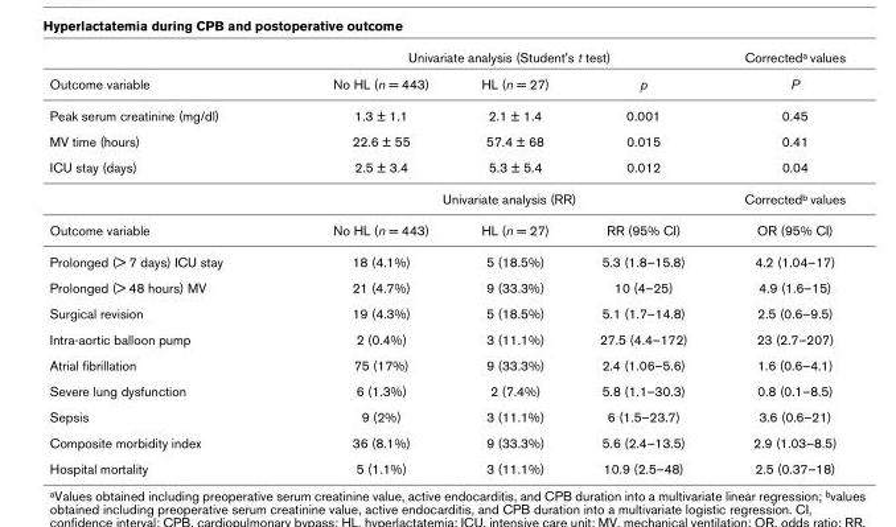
<table><thead><tr><td rowspan="2">Outcome variable</td><td colspan="3">Univariate analysis (Student&#x27;s t test)</td><td rowspan="2">Correcteda values P</td></tr><tr><td>No HL (n = 443)</td><td>HL (n = 27)</td><td>p</td></tr></thead><tbody><tr><td>Peak serum creatinine (mg/dl)</td><td>1.3 ± 1.1</td><td>2.1 ± 1.4</td><td>0.001</td><td>0.45</td></tr><tr><td>MV time (hours)</td><td>22.6 ± 55</td><td>57.4 ± 68</td><td>0.015</td><td>0.41</td></tr><tr><td rowspan="2">ICU stay (days)</td><td>2.5 ± 3.4</td><td>5.3 ± 5.4</td><td>0.012</td><td>0.04</td></tr><tr><td colspan="3">Univariate analysis (RR)</td><td>Correctedb values</td></tr><tr><td>Outcome variable</td><td>No HL (n = 443)</td><td>HL (n = 27)</td><td>RR (95% CI)</td><td>OR (95% CI)</td></tr><tr><td>Prolonged (&gt; 7 days) ICU stay</td><td>18 (4.1%)</td><td>5 (18.5%)</td><td>5.3 (1.8–15.8)</td><td>4.2 (1.04–17)</td></tr><tr><td>Prolonged (&gt; 48 hours) MV</td><td>21 (4.7%)</td><td>9 (33.3%)</td><td>10 (4–25)</td><td>4.9 (1.6–15)</td></tr><tr><td>Surgical revision</td><td>19 (4.3%)</td><td>5 (18.5%)</td><td>5.1 (1.7–14.8)</td><td>2.5 (0.6–9.5)</td></tr><tr><td>Intra-aortic balloon pump</td><td>2 (0.4%)</td><td>3 (11.1%)</td><td>27.5 (4.4–172)</td><td>23 (2.7–207)</td></tr><tr><td>Atrial fibrillation</td><td>75 (17%)</td><td>9 (33.3%)</td><td>2.4 (1.06–5.6)</td><td>1.6 (0.6–4.1)</td></tr><tr><td>Severe lung dysfunction</td><td>6 (1.3%)</td><td>2 (7.4%)</td><td>5.8 (1.1–30.3)</td><td>0.8 (0.1–8.5)</td></tr><tr><td>Sepsis</td><td>9 (2%)</td><td>3 (11.1%)</td><td>6 (1.5–23.7)</td><td>3.6 (0.6–21)</td></tr><tr><td>Composite morbidity index</td><td>36 (8.1%)</td><td>9 (33.3%)</td><td>5.6 (2.4–13.5)</td><td>2.9 (1.03–8.5)</td></tr><tr><td>Hospital mortality</td><td>5 (1.1%)</td><td>3 (11.1%)</td><td>10.9 (2.5–48)</td><td>2.5 (0.37–18)</td></tr></tbody></table>